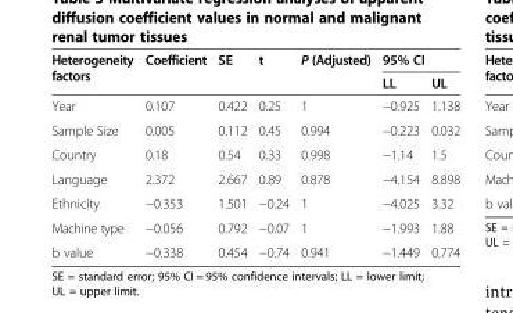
<table><thead><tr><td rowspan="2">Heterogeneity factors</td><td rowspan="2">Coefficient</td><td rowspan="2">SE</td><td rowspan="2">t</td><td rowspan="2">P (Adjusted)</td><td colspan="2">95% CI</td></tr><tr><td>LL</td><td>UL</td></tr></thead><tbody><tr><td>Year</td><td>0.107</td><td>0.422</td><td>0.25</td><td>1</td><td>−0.925</td><td>1.138</td></tr><tr><td>Sample Size</td><td>0.005</td><td>0.112</td><td>0.45</td><td>0.994</td><td>−0.223</td><td>0.032</td></tr><tr><td>Country</td><td>0.18</td><td>0.54</td><td>0.33</td><td>0.998</td><td>−1.14</td><td>1.5</td></tr><tr><td>Language</td><td>2.372</td><td>2.667</td><td>0.89</td><td>0.878</td><td>−4.154</td><td>8.898</td></tr><tr><td>Ethnicity</td><td>−0.353</td><td>1.501</td><td>−0.24</td><td>1</td><td>−4.025</td><td>3.32</td></tr><tr><td>Machine type</td><td>−0.056</td><td>0.792</td><td>−0.07</td><td>1</td><td>−1.993</td><td>1.88</td></tr><tr><td>b value</td><td>−0.338</td><td>0.454</td><td>−0.74</td><td>0.941</td><td>−1.449</td><td>0.774</td></tr></tbody></table>